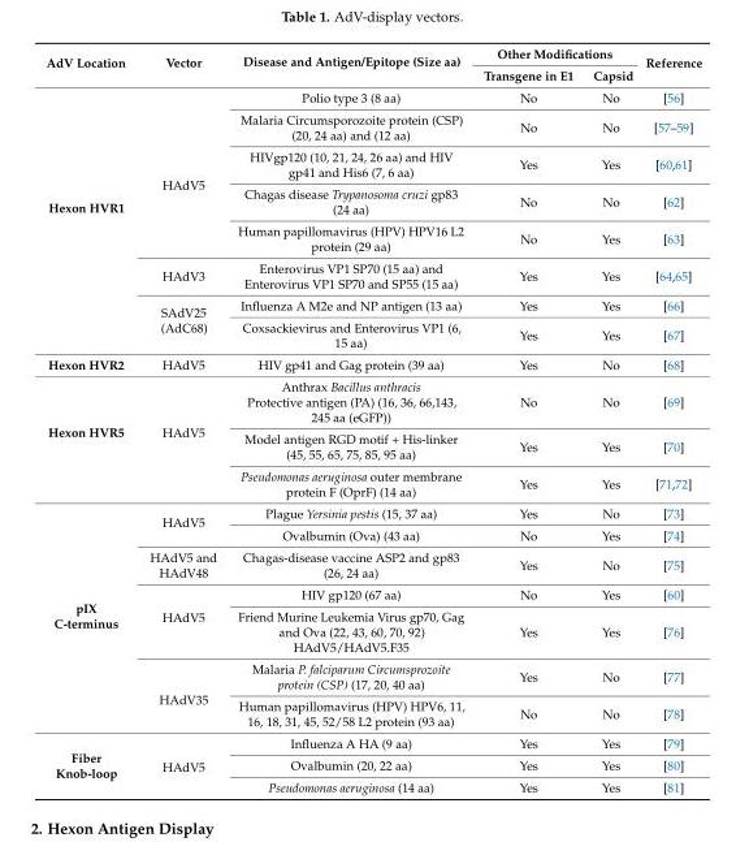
<table><thead><tr><td rowspan="2">AdV Location</td><td rowspan="2">Vector</td><td rowspan="2">Disease and Antigen/Epitope (Size aa)</td><td colspan="2">Other Modifications</td><td rowspan="2">Reference</td></tr><tr><td>Transgene in E1</td><td>Capsid</td></tr></thead><tbody><tr><td rowspan="8">Hexon HVR1</td><td rowspan="5">HAdV5</td><td>Polio type 3 (8 aa)</td><td>No</td><td>No</td><td>[56]</td></tr><tr><td>Malaria Circumsporozoite protein (CSP) (20, 24 aa) and (12 aa)</td><td>No</td><td>No</td><td>[57–59]</td></tr><tr><td>HIVgp120 (10, 21, 24, 26 aa) and HIV gp41 and His6 (7, 6 aa)</td><td>Yes</td><td>Yes</td><td>[60,61]</td></tr><tr><td>Chagas disease Trypanosoma cruzi gp83 (24 aa)</td><td>No</td><td>No</td><td>[62]</td></tr><tr><td>Human papillomavirus (HPV) HPV16 L2 protein (29 aa)</td><td>No</td><td>Yes</td><td>[63]</td></tr><tr><td>HAdV3</td><td>Enterovirus VP1 SP70 (15 aa) and Enterovirus VP1 SP70 and SP55 (15 aa)</td><td>Yes</td><td>Yes</td><td>[64,65]</td></tr><tr><td rowspan="2">SAdV25 (AdC68)</td><td>Influenza A M2e and NP antigen (13 aa)</td><td>Yes</td><td>Yes</td><td>[66]</td></tr><tr><td>Coxsackievirus and Enterovirus VP1 (6, 15 aa)</td><td>Yes</td><td>Yes</td><td>[67]</td></tr><tr><td>Hexon HVR2</td><td>HAdV5</td><td>HIV gp41 and Gag protein (39 aa)</td><td>Yes</td><td>No</td><td>[68]</td></tr><tr><td rowspan="3">Hexon HVR5</td><td rowspan="3">HAdV5</td><td>Anthrax Bacillus anthracis Protective antigen (PA) (16, 36, 66,143, 245 aa (eGFP))</td><td>No</td><td>No</td><td>[69]</td></tr><tr><td>Model antigen RGD motif + His-linker (45, 55, 65, 75, 85, 95 aa)</td><td>Yes</td><td>Yes</td><td>[70]</td></tr><tr><td>Pseudomonas aeruginosa outer membrane protein F (OprF) (14 aa)</td><td>Yes</td><td>Yes</td><td>[71,72]</td></tr><tr><td rowspan="7">pIX C-terminus</td><td rowspan="2">HAdV5</td><td>Plague Yersinia pestis (15, 37 aa)</td><td>Yes</td><td>No</td><td>[73]</td></tr><tr><td>Ovalbumin (Ova) (43 aa)</td><td>No</td><td>Yes</td><td>[74]</td></tr><tr><td>HAdV5 and HAdV48</td><td>Chagas-disease vaccine ASP2 and gp83 (26, 24 aa)</td><td>Yes</td><td>No</td><td>[75]</td></tr><tr><td rowspan="2">HAdV5</td><td>HIV gp120 (67 aa)</td><td>No</td><td>Yes</td><td>[60]</td></tr><tr><td>Friend Murine Leukemia Virus gp70, Gag and Ova (22, 43, 60, 70, 92) HAdV5/HAdV5.F35</td><td>Yes</td><td>Yes</td><td>[76]</td></tr><tr><td rowspan="2">HAdV35</td><td>Malaria P. falciparum Circumsprozoite protein (CSP) (17, 20, 40 aa)</td><td>Yes</td><td>No</td><td>[77]</td></tr><tr><td>Human papillomavirus (HPV) HPV6, 11, 16, 18, 31, 45, 52/58 L2 protein (93 aa)</td><td>No</td><td>No</td><td>[78]</td></tr><tr><td rowspan="3">Fiber Knob-loop</td><td rowspan="3">HAdV5</td><td>Influenza A HA (9 aa)</td><td>Yes</td><td>Yes</td><td>[79]</td></tr><tr><td>Ovalbumin (20, 22 aa)</td><td>Yes</td><td>Yes</td><td>[80]</td></tr><tr><td>Pseudomonas aeruginosa (14 aa)</td><td>Yes</td><td>Yes</td><td>[81]</td></tr></tbody></table>